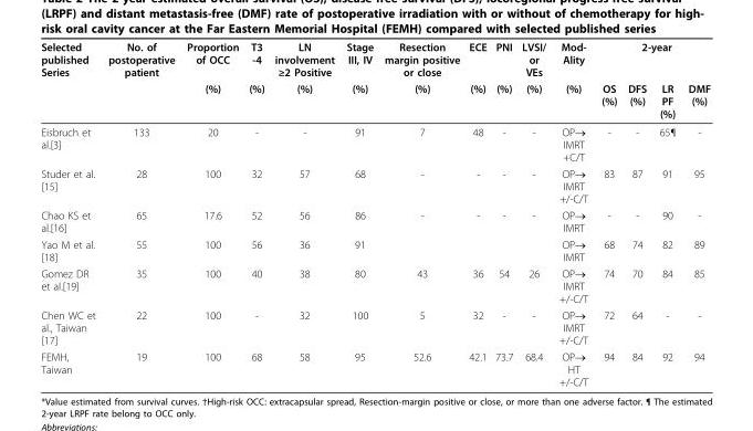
<table><thead><tr><td rowspan="2">Selected published Series</td><td rowspan="2">No. of postoperative patient</td><td rowspan="2">Proportion of OCC (%)</td><td rowspan="2">T3 -4 (%)</td><td rowspan="2">LN involvement ≥2 Positive (%)</td><td rowspan="2">Stage III, IV (%)</td><td rowspan="2">Resection margin positive or close (%)</td><td rowspan="2">ECE (%)</td><td rowspan="2">PNI (%)</td><td rowspan="2">LVSI/ or VEs (%)</td><td rowspan="2">Mod- Ality (%)</td><td colspan="4">2-year</td></tr><tr><td>OS (%)</td><td>DFS (%)</td><td>LR PF (%)</td><td>DMF (%)</td></tr></thead><tbody><tr><td>Eisbruch et al.[3]</td><td>133</td><td>20</td><td>-</td><td>-</td><td>91</td><td>7</td><td>48</td><td>-</td><td>-</td><td>OP→ IMRT +C/T</td><td>-</td><td>-</td><td>65¶</td><td>-</td></tr><tr><td>Studer et al. [15]</td><td>28</td><td>100</td><td>32</td><td>57</td><td>68</td><td>-</td><td>-</td><td>-</td><td>-</td><td>OP→ IMRT +/-C/T</td><td>83</td><td>87</td><td>91</td><td>95</td></tr><tr><td>Chao KS et al.[16]</td><td>65</td><td>17.6</td><td>52</td><td>56</td><td>86</td><td>-</td><td>-</td><td>-</td><td>-</td><td>OP→ IMRT</td><td>-</td><td>-</td><td>90</td><td>-</td></tr><tr><td>Yao M et al. [18]</td><td>55</td><td>100</td><td>56</td><td>36</td><td>91</td><td></td><td></td><td></td><td></td><td>OP→ IMRT</td><td>68</td><td>74</td><td>82</td><td>89</td></tr><tr><td>Gomez DR et al.[19]</td><td>35</td><td>100</td><td>40</td><td>38</td><td>80</td><td>43</td><td>36</td><td>54</td><td>26</td><td>OP→ IMRT +/-C/T</td><td>74</td><td>70</td><td>84</td><td>85</td></tr><tr><td>Chen WC et al., Taiwan [17]</td><td>22</td><td>100</td><td>-</td><td>32</td><td>100</td><td>5</td><td>32</td><td>-</td><td>-</td><td>OP→ IMRT +/-C/T</td><td>72</td><td>64</td><td>-</td><td>-</td></tr><tr><td>FEMH, Taiwan</td><td>19</td><td>100</td><td>68</td><td>58</td><td>95</td><td>52.6</td><td>42.1</td><td>73.7</td><td>68.4</td><td>OP→ HT +/-C/T</td><td>94</td><td>84</td><td>92</td><td>94</td></tr></tbody></table>